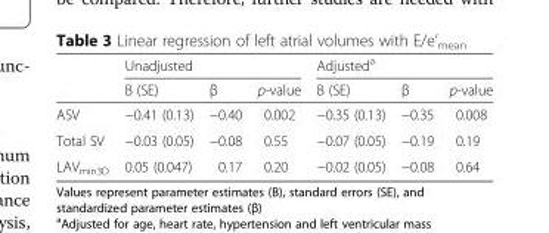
<table><thead><tr><td rowspan="2"></td><td colspan="3">Unadjusted</td><td colspan="3">Adjusted<sup>a</sup></td></tr><tr><td>B (SE)</td><td>β</td><td>p-value</td><td>B (SE)</td><td>β</td><td>p-value</td></tr></thead><tbody><tr><td>ASV</td><td>−0.41 (0.13)</td><td>−0.40</td><td>0.002</td><td>−0.35 (0.13)</td><td>−0.35</td><td>0.008</td></tr><tr><td>Total SV</td><td>−0.03 (0.05)</td><td>−0.08</td><td>0.55</td><td>−0.07 (0.05)</td><td>−0.19</td><td>0.19</td></tr><tr><td>LAV<sub>min3D</sub></td><td>0.05 (0.047)</td><td>0.17</td><td>0.20</td><td>−0.02 (0.05)</td><td>−0.08</td><td>0.64</td></tr></tbody></table>